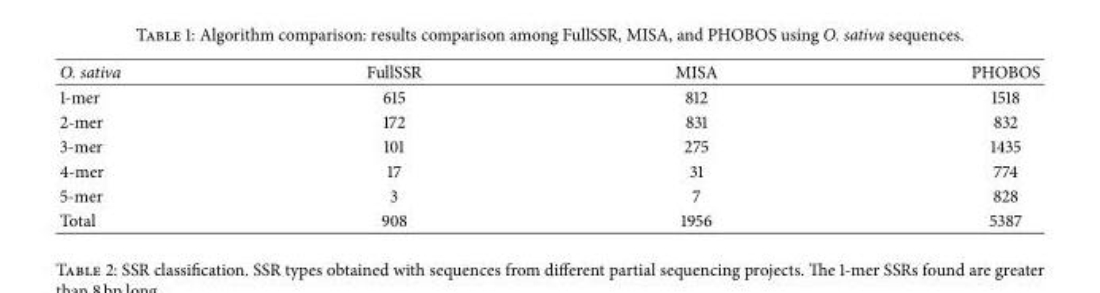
<table><thead><tr><td>O. sativa</td><td>FullSSR</td><td>MISA</td><td>PHOBOS</td></tr></thead><tbody><tr><td>1-mer</td><td>615</td><td>812</td><td>1518</td></tr><tr><td>2-mer</td><td>172</td><td>831</td><td>832</td></tr><tr><td>3-mer</td><td>101</td><td>275</td><td>1435</td></tr><tr><td>4-mer</td><td>17</td><td>31</td><td>774</td></tr><tr><td>5-mer</td><td>3</td><td>7</td><td>828</td></tr><tr><td>Total</td><td>908</td><td>1956</td><td>5387</td></tr></tbody></table>